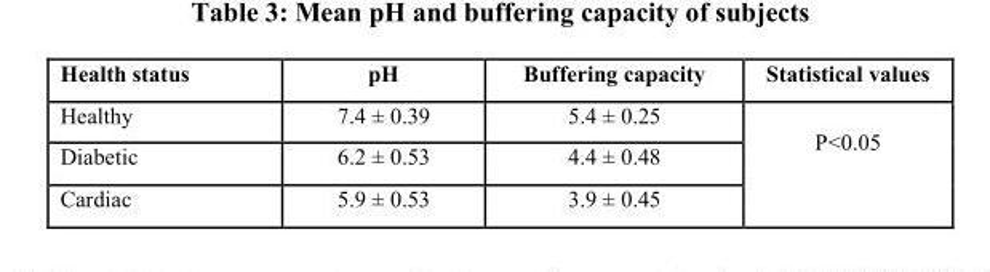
<table><thead><tr><td>Health status</td><td>pH</td><td>Buffering capacity</td><td>Statistical values</td></tr></thead><tbody><tr><td>Healthy</td><td>7.4 ± 0.39</td><td>5.4 ± 0.25</td><td rowspan="3">P&lt;0.05</td></tr><tr><td>Diabetic</td><td>6.2 ± 0.53</td><td>4.4 ± 0.48</td></tr><tr><td>Cardiac</td><td>5.9 ± 0.53</td><td>3.9 ± 0.45</td></tr></tbody></table>